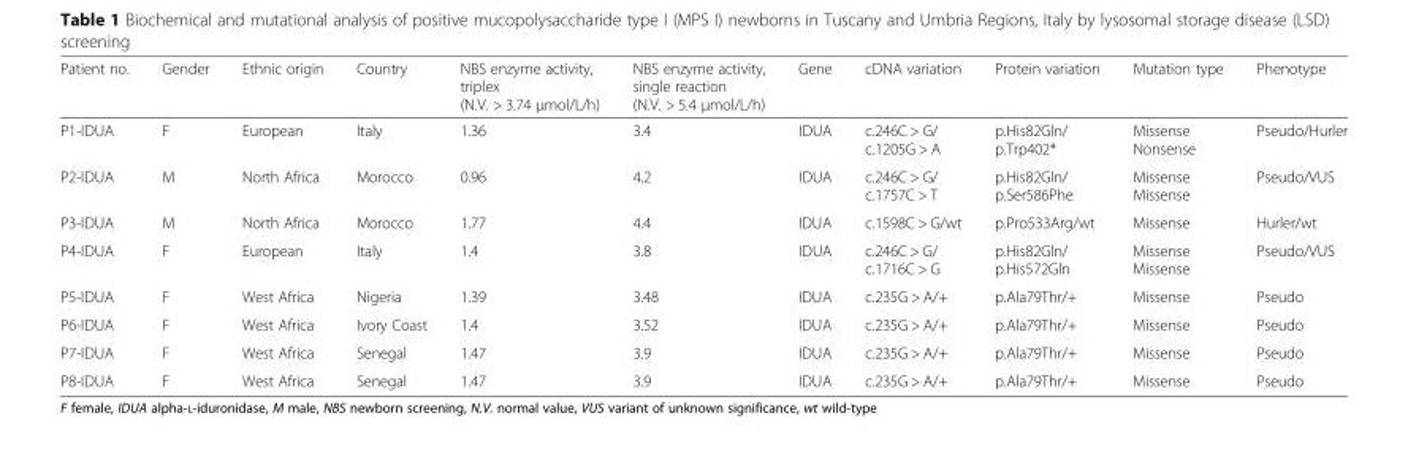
<table><thead><tr><td>Patient no.</td><td>Gender</td><td>Ethnic origin</td><td>Country</td><td>NBS enzyme activity, triplex (N.V. &gt; 3.74 μmol/L/h)</td><td>NBS enzyme activity, single reaction (N.V. &gt; 5.4 μmol/L/h)</td><td>Gene</td><td>cDNA variation</td><td>Protein variation</td><td>Mutation type</td><td>Phenotype</td></tr></thead><tbody><tr><td>P1-IDUA</td><td>F</td><td>European</td><td>Italy</td><td>1.36</td><td>3.4</td><td>IDUA</td><td>c.246C &gt; G/ c.1205G &gt; A</td><td>p.His82Gln/ p.Trp402*</td><td>Missense Nonsense</td><td>Pseudo/Hurler</td></tr><tr><td>P2-IDUA</td><td>M</td><td>North Africa</td><td>Morocco</td><td>0.96</td><td>4.2</td><td>IDUA</td><td>c.246C &gt; G/ c.1757C &gt; T</td><td>p.His82Gln/ p.Ser586Phe</td><td>Missense Missense</td><td>Pseudo/VUS</td></tr><tr><td>P3-IDUA</td><td>M</td><td>North Africa</td><td>Morocco</td><td>1.77</td><td>4.4</td><td>IDUA</td><td>c.1598C &gt; G/wt</td><td>p.Pro533Arg/wt</td><td>Missense</td><td>Hurler/wt</td></tr><tr><td>P4-IDUA</td><td>F</td><td>European</td><td>Italy</td><td>1.4</td><td>3.8</td><td>IDUA</td><td>c.246C &gt; G/ c.1716C &gt; G</td><td>p.His82Gln/ p.His572Gln</td><td>Missense Missense</td><td>Pseudo/VUS</td></tr><tr><td>P5-IDUA</td><td>F</td><td>West Africa</td><td>Nigeria</td><td>1.39</td><td>3.48</td><td>IDUA</td><td>c.235G &gt; A/+</td><td>p.Ala79Thr/+</td><td>Missense</td><td>Pseudo</td></tr><tr><td>P6-IDUA</td><td>F</td><td>West Africa</td><td>Ivory Coast</td><td>1.4</td><td>3.52</td><td>IDUA</td><td>c.235G &gt; A/+</td><td>p.Ala79Thr/+</td><td>Missense</td><td>Pseudo</td></tr><tr><td>P7-IDUA</td><td>F</td><td>West Africa</td><td>Senegal</td><td>1.47</td><td>3.9</td><td>IDUA</td><td>c.235G &gt; A/+</td><td>p.Ala79Thr/+</td><td>Missense</td><td>Pseudo</td></tr><tr><td>P8-IDUA</td><td>F</td><td>West Africa</td><td>Senegal</td><td>1.47</td><td>3.9</td><td>IDUA</td><td>c.235G &gt; A/+</td><td>p.Ala79Thr/+</td><td>Missense</td><td>Pseudo</td></tr></tbody></table>